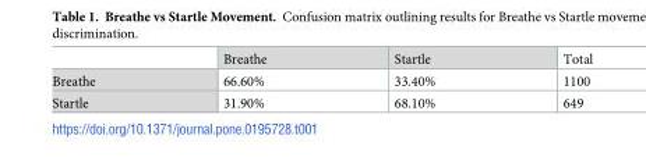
<table><thead><tr><td></td><td>Breathe</td><td>Startle</td><td>Total</td></tr></thead><tbody><tr><td>Breathe</td><td>66.60%</td><td>33.40%</td><td>1100</td></tr><tr><td>Startle</td><td>31.90%</td><td>68.10%</td><td>649</td></tr></tbody></table>